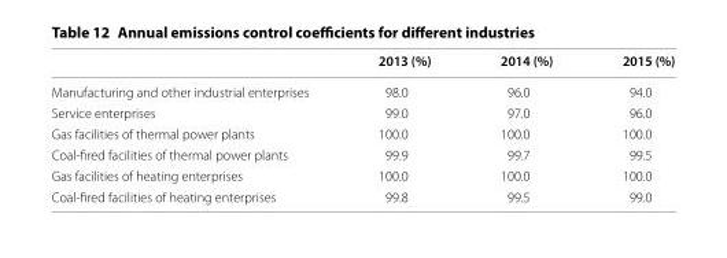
<table><thead><tr><td></td><td>2013 (%)</td><td>2014 (%)</td><td>2015 (%)</td></tr></thead><tbody><tr><td>Manufacturing and other industrial enterprises</td><td>98.0</td><td>96.0</td><td>94.0</td></tr><tr><td>Service enterprises</td><td>99.0</td><td>97.0</td><td>96.0</td></tr><tr><td>Gas facilities of thermal power plants</td><td>100.0</td><td>100.0</td><td>100.0</td></tr><tr><td>Coal-fired facilities of thermal power plants</td><td>99.9</td><td>99.7</td><td>99.5</td></tr><tr><td>Gas facilities of heating enterprises</td><td>100.0</td><td>100.0</td><td>100.0</td></tr><tr><td>Coal-fired facilities of heating enterprises</td><td>99.8</td><td>99.5</td><td>99.0</td></tr></tbody></table>